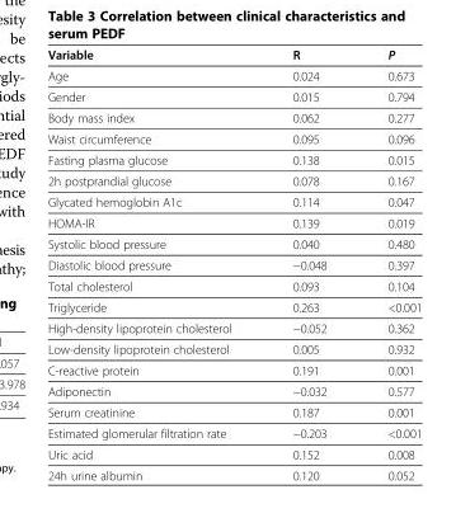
<table><thead><tr><td>Variable</td><td>R</td><td>P</td></tr></thead><tbody><tr><td>Age</td><td>0.024</td><td>0.673</td></tr><tr><td>Gender</td><td>0.015</td><td>0.794</td></tr><tr><td>Body mass index</td><td>0.062</td><td>0.277</td></tr><tr><td>Waist circumference</td><td>0.095</td><td>0.096</td></tr><tr><td>Fasting plasma glucose</td><td>0.138</td><td>0.015</td></tr><tr><td>2h postprandial glucose</td><td>0.078</td><td>0.167</td></tr><tr><td>Glycated hemoglobin A1c</td><td>0.114</td><td>0.047</td></tr><tr><td>HOMA-IR</td><td>0.139</td><td>0.019</td></tr><tr><td>Systolic blood pressure</td><td>0.040</td><td>0.480</td></tr><tr><td>Diastolic blood pressure</td><td>−0.048</td><td>0.397</td></tr><tr><td>Total cholesterol</td><td>0.093</td><td>0.104</td></tr><tr><td>Triglyceride</td><td>0.263</td><td>&lt;0.001</td></tr><tr><td>High-density lipoprotein cholesterol</td><td>−0.052</td><td>0.362</td></tr><tr><td>Low-density lipoprotein cholesterol</td><td>0.005</td><td>0.932</td></tr><tr><td>C-reactive protein</td><td>0.191</td><td>0.001</td></tr><tr><td>Adiponectin</td><td>−0.032</td><td>0.577</td></tr><tr><td>Serum creatinine</td><td>0.187</td><td>0.001</td></tr><tr><td>Estimated glomerular filtration rate</td><td>−0.203</td><td>&lt;0.001</td></tr><tr><td>Uric acid</td><td>0.152</td><td>0.008</td></tr><tr><td>24h urine albumin</td><td>0.120</td><td>0.052</td></tr></tbody></table>